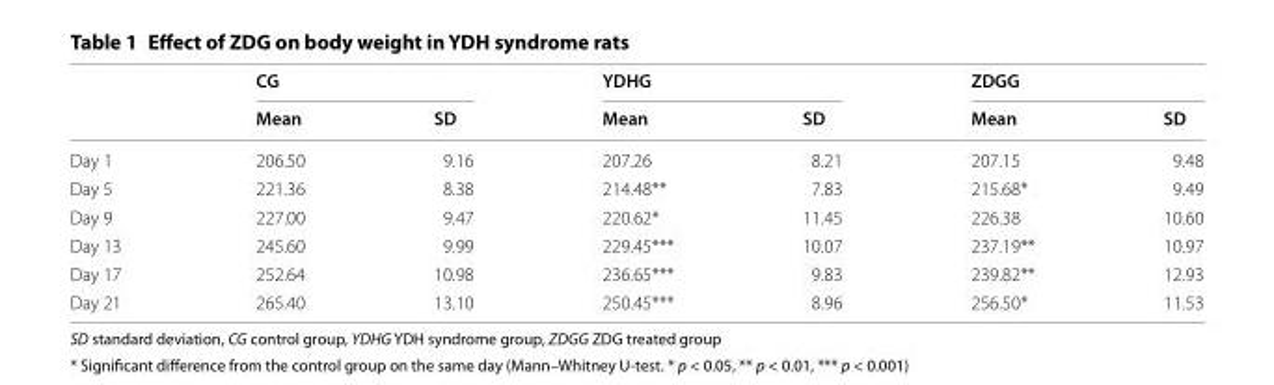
<table><thead><tr><td rowspan="2"></td><td colspan="2">CG</td><td colspan="2">YDHG</td><td colspan="2">ZDGG</td></tr><tr><td>Mean</td><td>SD</td><td>Mean</td><td>SD</td><td>Mean</td><td>SD</td></tr></thead><tbody><tr><td>Day 1</td><td>206.50</td><td>9.16</td><td>207.26</td><td>8.21</td><td>207.15</td><td>9.48</td></tr><tr><td>Day 5</td><td>221.36</td><td>8.38</td><td>214.48**</td><td>7.83</td><td>215.68*</td><td>9.49</td></tr><tr><td>Day 9</td><td>227.00</td><td>9.47</td><td>220.62*</td><td>11.45</td><td>226.38</td><td>10.60</td></tr><tr><td>Day 13</td><td>245.60</td><td>9.99</td><td>229.45***</td><td>10.07</td><td>237.19**</td><td>10.97</td></tr><tr><td>Day 17</td><td>252.64</td><td>10.98</td><td>236.65***</td><td>9.83</td><td>239.82**</td><td>12.93</td></tr><tr><td>Day 21</td><td>265.40</td><td>13.10</td><td>250.45***</td><td>8.96</td><td>256.50*</td><td>11.53</td></tr></tbody></table>